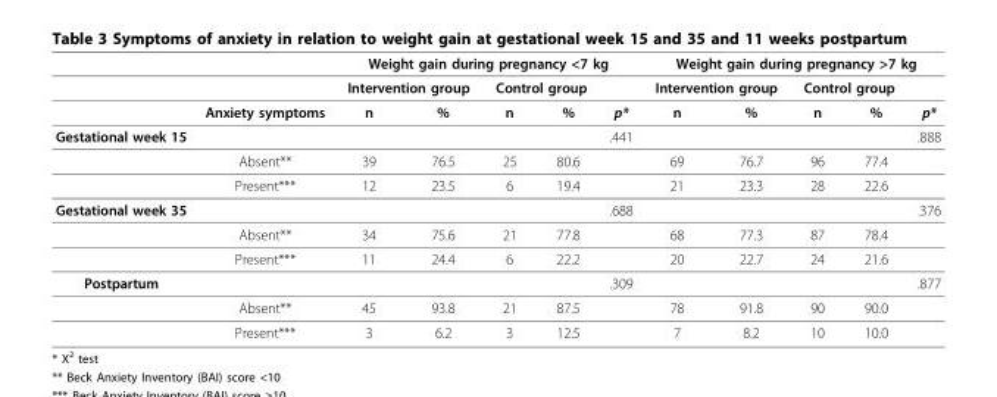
<table><thead><tr><td rowspan="3"></td><td rowspan="3">Anxiety symptoms</td><td colspan="5">Weight gain during pregnancy &lt;7 kg</td><td colspan="5">Weight gain during pregnancy &gt;7 kg</td></tr><tr><td colspan="2">Intervention group</td><td colspan="2">Control group</td><td rowspan="2">p*</td><td colspan="2">Intervention group</td><td colspan="2">Control group</td><td rowspan="2">p*</td></tr><tr><td>n</td><td>%</td><td>n</td><td>%</td><td>n</td><td>%</td><td>n</td><td>%</td></tr></thead><tbody><tr><td rowspan="3">Gestational week 15</td><td></td><td></td><td></td><td></td><td></td><td>.441</td><td></td><td></td><td></td><td></td><td>.888</td></tr><tr><td>Absent**</td><td>39</td><td>76.5</td><td>25</td><td>80.6</td><td></td><td>69</td><td>76.7</td><td>96</td><td>77.4</td><td></td></tr><tr><td>Present***</td><td>12</td><td>23.5</td><td>6</td><td>19.4</td><td></td><td>21</td><td>23.3</td><td>28</td><td>22.6</td><td></td></tr><tr><td rowspan="3">Gestational week 35</td><td></td><td></td><td></td><td></td><td></td><td>.688</td><td></td><td></td><td></td><td></td><td>.376</td></tr><tr><td>Absent**</td><td>34</td><td>75.6</td><td>21</td><td>77.8</td><td></td><td>68</td><td>77.3</td><td>87</td><td>78.4</td><td></td></tr><tr><td>Present***</td><td>11</td><td>24.4</td><td>6</td><td>22.2</td><td></td><td>20</td><td>22.7</td><td>24</td><td>21.6</td><td></td></tr><tr><td rowspan="3">Postpartum</td><td></td><td></td><td></td><td></td><td></td><td>.309</td><td></td><td></td><td></td><td></td><td>.877</td></tr><tr><td>Absent**</td><td>45</td><td>93.8</td><td>21</td><td>87.5</td><td></td><td>78</td><td>91.8</td><td>90</td><td>90.0</td><td></td></tr><tr><td>Present***</td><td>3</td><td>6.2</td><td>3</td><td>12.5</td><td></td><td>7</td><td>8.2</td><td>10</td><td>10.0</td><td></td></tr></tbody></table>